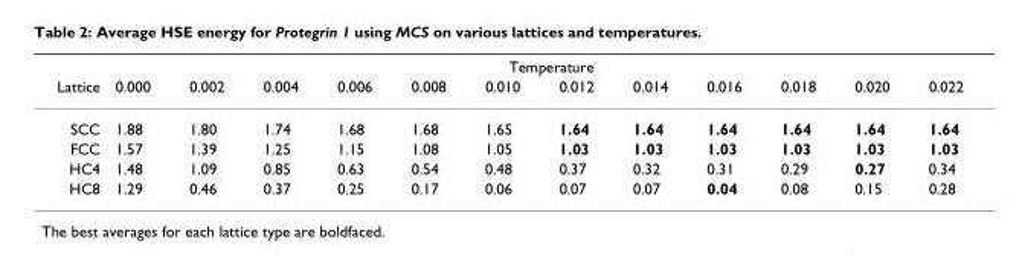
<table><thead><tr><td rowspan="2">Lattice</td><td colspan="12">Temperature</td></tr><tr><td>0.000</td><td>0.002</td><td>0.004</td><td>0.006</td><td>0.008</td><td>0.010</td><td>0.012</td><td>0.014</td><td>0.016</td><td>0.018</td><td>0.020</td><td>0.022</td></tr></thead><tbody><tr><td>SCC</td><td>1.88</td><td>1.80</td><td>1.74</td><td>1.68</td><td>1.68</td><td>1.65</td><td>1.64</td><td>1.64</td><td>1.64</td><td>1.64</td><td>1.64</td><td>1.64</td></tr><tr><td>FCC</td><td>1.57</td><td>1.39</td><td>1.25</td><td>1.15</td><td>1.08</td><td>1.05</td><td>1.03</td><td>1.03</td><td>1.03</td><td>1.03</td><td>1.03</td><td>1.03</td></tr><tr><td>HC4</td><td>1.48</td><td>1.09</td><td>0.85</td><td>0.63</td><td>0.54</td><td>0.48</td><td>0.37</td><td>0.32</td><td>0.31</td><td>0.29</td><td>0.27</td><td>0.34</td></tr><tr><td>HC8</td><td>1.29</td><td>0.46</td><td>0.37</td><td>0.25</td><td>0.17</td><td>0.06</td><td>0.07</td><td>0.07</td><td>0.04</td><td>0.08</td><td>0.15</td><td>0.28</td></tr></tbody></table>